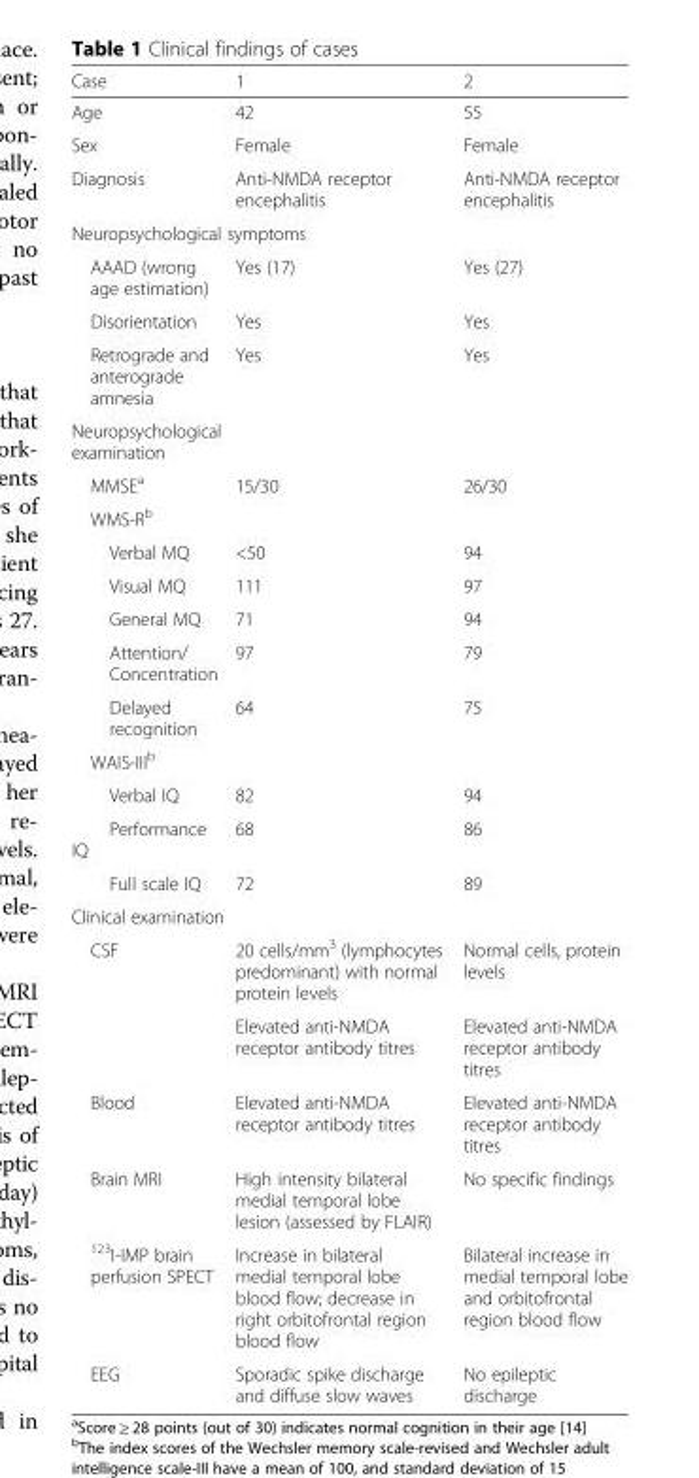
<table><thead><tr><td>Case</td><td>1</td><td>2</td></tr></thead><tbody><tr><td>Age</td><td>42</td><td>55</td></tr><tr><td>Sex</td><td>Female</td><td>Female</td></tr><tr><td>Diagnosis</td><td>Anti-NMDA receptor encephalitis</td><td>Anti-NMDA receptor encephalitis</td></tr><tr><td colspan="3">Neuropsychological symptoms</td></tr><tr><td>AAAD (wrong age estimation)</td><td>Yes (17)</td><td>Yes (27)</td></tr><tr><td>Disorientation</td><td>Yes</td><td>Yes</td></tr><tr><td>Retrograde and anterograde amnesia</td><td>Yes</td><td>Yes</td></tr><tr><td colspan="3">Neuropsychological examination</td></tr><tr><td>MMSE<sup>a</sup></td><td>15/30</td><td>26/30</td></tr><tr><td colspan="3">WMS-R<sup>b</sup></td></tr><tr><td>Verbal MQ</td><td>&lt;50</td><td>94</td></tr><tr><td>Visual MQ</td><td>111</td><td>97</td></tr><tr><td>General MQ</td><td>71</td><td>94</td></tr><tr><td>Attention/ Concentration</td><td>97</td><td>79</td></tr><tr><td>Delayed recognition</td><td>64</td><td>75</td></tr><tr><td colspan="3">WAIS-III<sup>b</sup></td></tr><tr><td>Verbal IQ</td><td>82</td><td>94</td></tr><tr><td>Performance IQ</td><td>68</td><td>86</td></tr><tr><td>Full scale IQ</td><td>72</td><td>89</td></tr><tr><td colspan="3">Clinical examination</td></tr><tr><td rowspan="2">CSF</td><td>20 cells/mm<sup>3</sup> (lymphocytes predominant) with normal protein levels</td><td>Normal cells, protein levels</td></tr><tr><td>Elevated anti-NMDA receptor antibody titres</td><td>Elevated anti-NMDA receptor antibody titres</td></tr><tr><td>Blood</td><td>Elevated anti-NMDA receptor antibody titres</td><td>Elevated anti-NMDA receptor antibody titres</td></tr><tr><td>Brain MRI</td><td>High intensity bilateral medial temporal lobe lesion (assessed by FLAIR)</td><td>No specific findings</td></tr><tr><td><sup>123</sup>I-IMP brain perfusion SPECT</td><td>Increase in bilateral medial temporal lobe blood flow; decrease in right orbitofrontal region blood flow</td><td>Bilateral increase in medial temporal lobe and orbitofrontal region blood flow</td></tr><tr><td>EEG</td><td>Sporadic spike discharge and diffuse slow waves</td><td>No epileptic discharge</td></tr></tbody></table>